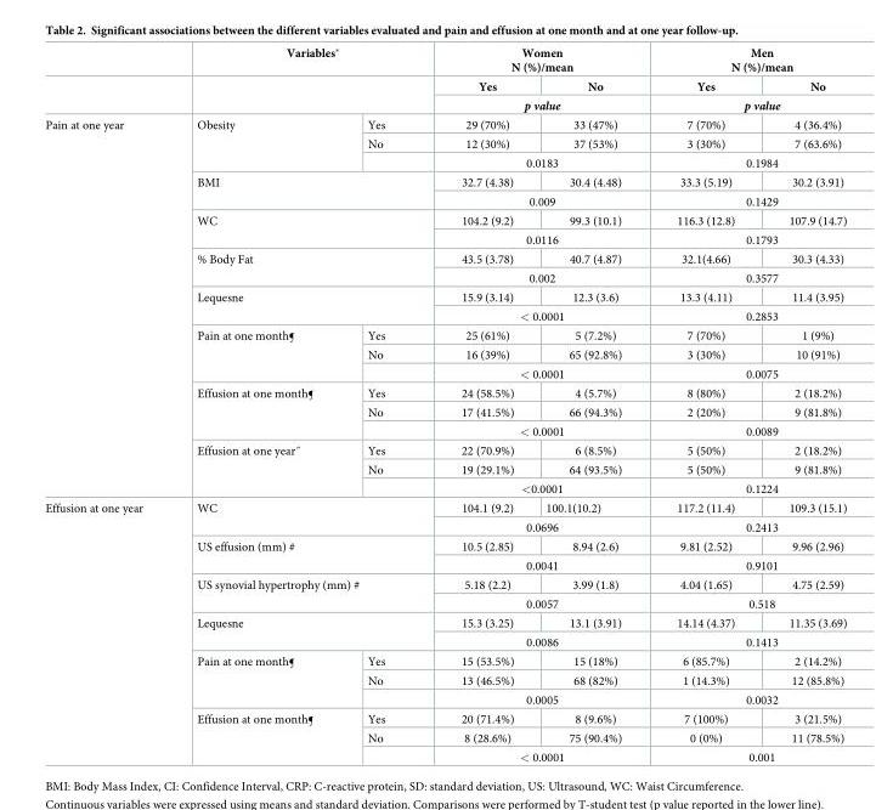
<table><thead><tr><td rowspan="3"></td><td colspan="2">Variables*</td><td colspan="2">Women N (%)/mean</td><td colspan="2">Men N (%)/mean</td></tr><tr><td rowspan="2"></td><td rowspan="2"></td><td>Yes</td><td>No</td><td>Yes</td><td>No</td></tr><tr><td colspan="2">p value</td><td colspan="2">p value</td></tr></thead><tbody><tr><td rowspan="20">Pain at one year</td><td rowspan="3">Obesity</td><td>Yes</td><td>29 (70%)</td><td>33 (47%)</td><td>7 (70%)</td><td>4 (36.4%)</td></tr><tr><td>No</td><td>12 (30%)</td><td>37 (53%)</td><td>3 (30%)</td><td>7 (63.6%)</td></tr><tr><td></td><td colspan="2">0.0183</td><td colspan="2">0.1984</td></tr><tr><td rowspan="2" colspan="2">BMI</td><td>32.7 (4.38)</td><td>30.4 (4.48)</td><td>33.3 (5.19)</td><td>30.2 (3.91)</td></tr><tr><td colspan="2">0.009</td><td colspan="2">0.1429</td></tr><tr><td rowspan="2" colspan="2">WC</td><td>104.2 (9.2)</td><td>99.3 (10.1)</td><td>116.3 (12.8)</td><td>107.9 (14.7)</td></tr><tr><td colspan="2">0.0116</td><td colspan="2">0.1793</td></tr><tr><td rowspan="2" colspan="2">% Body Fat</td><td>43.5 (3.78)</td><td>40.7 (4.87)</td><td>32.1(4.66)</td><td>30.3 (4.33)</td></tr><tr><td colspan="2">0.002</td><td colspan="2">0.3577</td></tr><tr><td rowspan="2" colspan="2">Lequesne</td><td>15.9 (3.14)</td><td>12.3 (3.6)</td><td>13.3 (4.11)</td><td>11.4 (3.95)</td></tr><tr><td colspan="2">&lt; 0.0001</td><td colspan="2">0.2853</td></tr><tr><td rowspan="3">Pain at one month¶</td><td>Yes</td><td>25 (61%)</td><td>5 (7.2%)</td><td>7 (70%)</td><td>1 (9%)</td></tr><tr><td>No</td><td>16 (39%)</td><td>65 (92.8%)</td><td>3 (30%)</td><td>10 (91%)</td></tr><tr><td></td><td colspan="2">&lt; 0.0001</td><td colspan="2">0.0075</td></tr><tr><td rowspan="3">Effusion at one month¶</td><td>Yes</td><td>24 (58.5%)</td><td>4 (5.7%)</td><td>8 (80%)</td><td>2 (18.2%)</td></tr><tr><td>No</td><td>17 (41.5%)</td><td>66 (94.3%)</td><td>2 (20%)</td><td>9 (81.8%)</td></tr><tr><td></td><td colspan="2">&lt; 0.0001</td><td colspan="2">0.0089</td></tr><tr><td rowspan="3">Effusion at one year˝</td><td>Yes</td><td>22 (70.9%)</td><td>6 (8.5%)</td><td>5 (50%)</td><td>2 (18.2%)</td></tr><tr><td>No</td><td>19 (29.1%)</td><td>64 (93.5%)</td><td>5 (50%)</td><td>9 (81.8%)</td></tr><tr><td></td><td colspan="2">&lt;0.0001</td><td colspan="2">0.1224</td></tr><tr><td rowspan="14">Effusion at one year</td><td rowspan="2" colspan="2">WC</td><td>104.1 (9.2)</td><td>100.1(10.2)</td><td>117.2 (11.4)</td><td>109.3 (15.1)</td></tr><tr><td colspan="2">0.0696</td><td colspan="2">0.2413</td></tr><tr><td rowspan="2" colspan="2">US effusion (mm) #</td><td>10.5 (2.85)</td><td>8.94 (2.6)</td><td>9.81 (2.52)</td><td>9.96 (2.96)</td></tr><tr><td colspan="2">0.0041</td><td colspan="2">0.9101</td></tr><tr><td rowspan="2" colspan="2">US synovial hypertrophy (mm) #</td><td>5.18 (2.2)</td><td>3.99 (1.8)</td><td>4.04 (1.65)</td><td>4.75 (2.59)</td></tr><tr><td colspan="2">0.0057</td><td colspan="2">0.518</td></tr><tr><td rowspan="2" colspan="2">Lequesne</td><td>15.3 (3.25)</td><td>13.1 (3.91)</td><td>14.14 (4.37)</td><td>11.35 (3.69)</td></tr><tr><td colspan="2">0.0086</td><td colspan="2">0.1413</td></tr><tr><td rowspan="3">Pain at one month¶</td><td>Yes</td><td>15 (53.5%)</td><td>15 (18%)</td><td>6 (85.7%)</td><td>2 (14.2%)</td></tr><tr><td>No</td><td>13 (46.5%)</td><td>68 (82%)</td><td>1 (14.3%)</td><td>12 (85.8%)</td></tr><tr><td></td><td colspan="2">0.0005</td><td colspan="2">0.0032</td></tr><tr><td rowspan="3">Effusion at one month¶</td><td>Yes</td><td>20 (71.4%)</td><td>8 (9.6%)</td><td>7 (100%)</td><td>3 (21.5%)</td></tr><tr><td>No</td><td>8 (28.6%)</td><td>75 (90.4%)</td><td>0 (0%)</td><td>11 (78.5%)</td></tr><tr><td></td><td colspan="2">&lt; 0.0001</td><td colspan="2">0.001</td></tr></tbody></table>